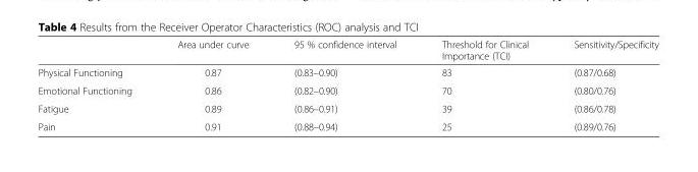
<table><thead><tr><td></td><td>Area under curve</td><td>95 % confidence interval</td><td>Threshold for Clinical Importance (TCI)</td><td>Sensitivity/Specificity</td></tr></thead><tbody><tr><td>Physical Functioning</td><td>0.87</td><td>(0.83–0.90)</td><td>83</td><td>(0.87/0.68)</td></tr><tr><td>Emotional Functioning</td><td>0.86</td><td>(0.82–0.90)</td><td>70</td><td>(0.80/0.76)</td></tr><tr><td>Fatigue</td><td>0.89</td><td>(0.86–0.91)</td><td>39</td><td>(0.86/0.78)</td></tr><tr><td>Pain</td><td>0.91</td><td>(0.88–0.94)</td><td>25</td><td>(0.89/0.76)</td></tr></tbody></table>